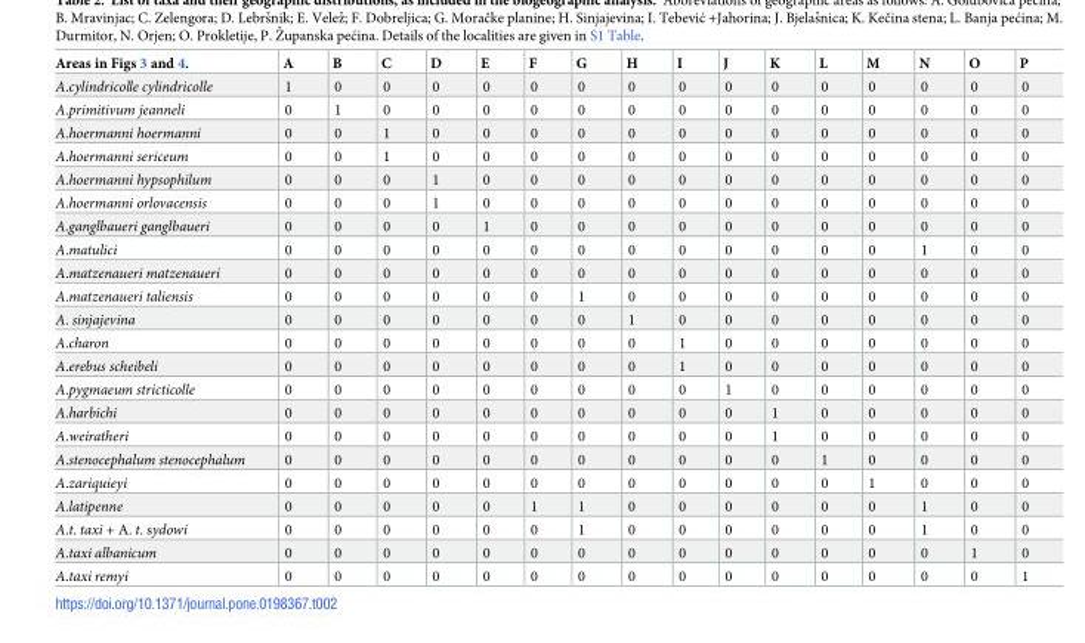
<table><thead><tr><td>Areas in Figs 3 and 4.</td><td>A</td><td>B</td><td>C</td><td>D</td><td>E</td><td>F</td><td>G</td><td>H</td><td>I</td><td>J</td><td>K</td><td>L</td><td>M</td><td>N</td><td>O</td><td>P</td></tr></thead><tbody><tr><td>A.cylindricolle cylindricolle</td><td>1</td><td>0</td><td>0</td><td>0</td><td>0</td><td>0</td><td>0</td><td>0</td><td>0</td><td>0</td><td>0</td><td>0</td><td>0</td><td>0</td><td>0</td><td>0</td></tr><tr><td>A.primitivum jeanneli</td><td>0</td><td>1</td><td>0</td><td>0</td><td>0</td><td>0</td><td>0</td><td>0</td><td>0</td><td>0</td><td>0</td><td>0</td><td>0</td><td>0</td><td>0</td><td>0</td></tr><tr><td>A.hoermanni hoermanni</td><td>0</td><td>0</td><td>1</td><td>0</td><td>0</td><td>0</td><td>0</td><td>0</td><td>0</td><td>0</td><td>0</td><td>0</td><td>0</td><td>0</td><td>0</td><td>0</td></tr><tr><td>A.hoermanni sericeum</td><td>0</td><td>0</td><td>1</td><td>0</td><td>0</td><td>0</td><td>0</td><td>0</td><td>0</td><td>0</td><td>0</td><td>0</td><td>0</td><td>0</td><td>0</td><td>0</td></tr><tr><td>A.hoermanni hypsophilum</td><td>0</td><td>0</td><td>0</td><td>1</td><td>0</td><td>0</td><td>0</td><td>0</td><td>0</td><td>0</td><td>0</td><td>0</td><td>0</td><td>0</td><td>0</td><td>0</td></tr><tr><td>A.hoermanni orlovacensis</td><td>0</td><td>0</td><td>0</td><td>1</td><td>0</td><td>0</td><td>0</td><td>0</td><td>0</td><td>0</td><td>0</td><td>0</td><td>0</td><td>0</td><td>0</td><td>0</td></tr><tr><td>A.ganglbaueri ganglbaueri</td><td>0</td><td>0</td><td>0</td><td>0</td><td>1</td><td>0</td><td>0</td><td>0</td><td>0</td><td>0</td><td>0</td><td>0</td><td>0</td><td>0</td><td>0</td><td>0</td></tr><tr><td>A.matulici</td><td>0</td><td>0</td><td>0</td><td>0</td><td>0</td><td>0</td><td>0</td><td>0</td><td>0</td><td>0</td><td>0</td><td>0</td><td>0</td><td>1</td><td>0</td><td>0</td></tr><tr><td>A.matzenaueri matzenaueri</td><td>0</td><td>0</td><td>0</td><td>0</td><td>0</td><td>0</td><td>0</td><td>0</td><td>0</td><td>0</td><td>0</td><td>0</td><td>0</td><td>0</td><td>0</td><td>0</td></tr><tr><td>A.matzenaueri taliensis</td><td>0</td><td>0</td><td>0</td><td>0</td><td>0</td><td>0</td><td>1</td><td>0</td><td>0</td><td>0</td><td>0</td><td>0</td><td>0</td><td>0</td><td>0</td><td>0</td></tr><tr><td>A. sinjajevina</td><td>0</td><td>0</td><td>0</td><td>0</td><td>0</td><td>0</td><td>0</td><td>1</td><td>0</td><td>0</td><td>0</td><td>0</td><td>0</td><td>0</td><td>0</td><td>0</td></tr><tr><td>A.charon</td><td>0</td><td>0</td><td>0</td><td>0</td><td>0</td><td>0</td><td>0</td><td>0</td><td>1</td><td>0</td><td>0</td><td>0</td><td>0</td><td>0</td><td>0</td><td>0</td></tr><tr><td>A.erebus scheibeli</td><td>0</td><td>0</td><td>0</td><td>0</td><td>0</td><td>0</td><td>0</td><td>0</td><td>1</td><td>0</td><td>0</td><td>0</td><td>0</td><td>0</td><td>0</td><td>0</td></tr><tr><td>A.pygmaeum stricticolle</td><td>0</td><td>0</td><td>0</td><td>0</td><td>0</td><td>0</td><td>0</td><td>0</td><td>0</td><td>1</td><td>0</td><td>0</td><td>0</td><td>0</td><td>0</td><td>0</td></tr><tr><td>A.harbichi</td><td>0</td><td>0</td><td>0</td><td>0</td><td>0</td><td>0</td><td>0</td><td>0</td><td>0</td><td>0</td><td>1</td><td>0</td><td>0</td><td>0</td><td>0</td><td>0</td></tr><tr><td>A.weiratheri</td><td>0</td><td>0</td><td>0</td><td>0</td><td>0</td><td>0</td><td>0</td><td>0</td><td>0</td><td>0</td><td>1</td><td>0</td><td>0</td><td>0</td><td>0</td><td>0</td></tr><tr><td>A.stenocephalum stenocephalum</td><td>0</td><td>0</td><td>0</td><td>0</td><td>0</td><td>0</td><td>0</td><td>0</td><td>0</td><td>0</td><td>0</td><td>1</td><td>0</td><td>0</td><td>0</td><td>0</td></tr><tr><td>A.zariquieyi</td><td>0</td><td>0</td><td>0</td><td>0</td><td>0</td><td>0</td><td>0</td><td>0</td><td>0</td><td>0</td><td>0</td><td>0</td><td>1</td><td>0</td><td>0</td><td>0</td></tr><tr><td>A.latipenne</td><td>0</td><td>0</td><td>0</td><td>0</td><td>0</td><td>1</td><td>1</td><td>0</td><td>0</td><td>0</td><td>0</td><td>0</td><td>0</td><td>1</td><td>0</td><td>0</td></tr><tr><td>A.t. taxi + A. t. sydowi</td><td>0</td><td>0</td><td>0</td><td>0</td><td>0</td><td>0</td><td>1</td><td>0</td><td>0</td><td>0</td><td>0</td><td>0</td><td>0</td><td>1</td><td>0</td><td>0</td></tr><tr><td>A.taxi albanicum</td><td>0</td><td>0</td><td>0</td><td>0</td><td>0</td><td>0</td><td>0</td><td>0</td><td>0</td><td>0</td><td>0</td><td>0</td><td>0</td><td>0</td><td>1</td><td>0</td></tr><tr><td>A.taxi remyi</td><td>0</td><td>0</td><td>0</td><td>0</td><td>0</td><td>0</td><td>0</td><td>0</td><td>0</td><td>0</td><td>0</td><td>0</td><td>0</td><td>0</td><td>0</td><td>1</td></tr></tbody></table>